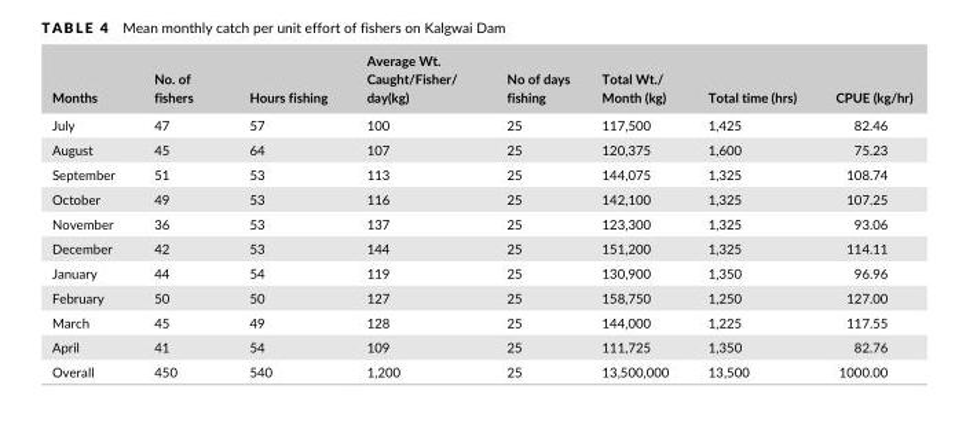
<table><thead><tr><td>Months</td><td>No. of fishers</td><td>Hours fishing</td><td>Average Wt. Caught/Fisher/ day(kg)</td><td>No of days fishing</td><td>Total Wt./ Month (kg)</td><td>Total time (hrs)</td><td>CPUE (kg/hr)</td></tr></thead><tbody><tr><td>July</td><td>47</td><td>57</td><td>100</td><td>25</td><td>117,500</td><td>1,425</td><td>82.46</td></tr><tr><td>August</td><td>45</td><td>64</td><td>107</td><td>25</td><td>120,375</td><td>1,600</td><td>75.23</td></tr><tr><td>September</td><td>51</td><td>53</td><td>113</td><td>25</td><td>144,075</td><td>1,325</td><td>108.74</td></tr><tr><td>October</td><td>49</td><td>53</td><td>116</td><td>25</td><td>142,100</td><td>1,325</td><td>107.25</td></tr><tr><td>November</td><td>36</td><td>53</td><td>137</td><td>25</td><td>123,300</td><td>1,325</td><td>93.06</td></tr><tr><td>December</td><td>42</td><td>53</td><td>144</td><td>25</td><td>151,200</td><td>1,325</td><td>114.11</td></tr><tr><td>January</td><td>44</td><td>54</td><td>119</td><td>25</td><td>130,900</td><td>1,350</td><td>96.96</td></tr><tr><td>February</td><td>50</td><td>50</td><td>127</td><td>25</td><td>158,750</td><td>1,250</td><td>127.00</td></tr><tr><td>March</td><td>45</td><td>49</td><td>128</td><td>25</td><td>144,000</td><td>1,225</td><td>117.55</td></tr><tr><td>April</td><td>41</td><td>54</td><td>109</td><td>25</td><td>111,725</td><td>1,350</td><td>82.76</td></tr><tr><td>Overall</td><td>450</td><td>540</td><td>1,200</td><td>25</td><td>13,500,000</td><td>13,500</td><td>1000.00</td></tr></tbody></table>